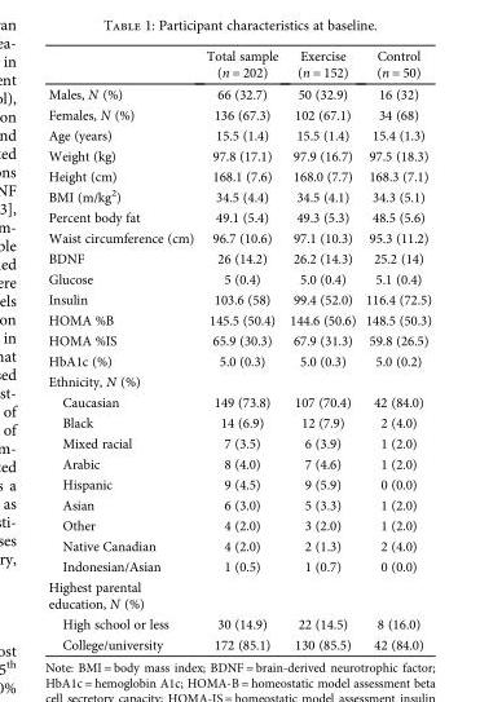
<table><thead><tr><td></td><td>Total sample (n = 202)</td><td>Exercise (n = 152)</td><td>Control (n = 50)</td></tr></thead><tbody><tr><td>Males, N (%)</td><td>66 (32.7)</td><td>50 (32.9)</td><td>16 (32)</td></tr><tr><td>Females, N (%)</td><td>136 (67.3)</td><td>102 (67.1)</td><td>34 (68)</td></tr><tr><td>Age (years)</td><td>15.5 (1.4)</td><td>15.5 (1.4)</td><td>15.4 (1.3)</td></tr><tr><td>Weight (kg)</td><td>97.8 (17.1)</td><td>97.9 (16.7)</td><td>97.5 (18.3)</td></tr><tr><td>Height (cm)</td><td>168.1 (7.6)</td><td>168.0 (7.7)</td><td>168.3 (7.1)</td></tr><tr><td>BMI (m/kg<sup>2</sup>)</td><td>34.5 (4.4)</td><td>34.5 (4.1)</td><td>34.3 (5.1)</td></tr><tr><td>Percent body fat</td><td>49.1 (5.4)</td><td>49.3 (5.3)</td><td>48.5 (5.6)</td></tr><tr><td>Waist circumference (cm)</td><td>96.7 (10.6)</td><td>97.1 (10.3)</td><td>95.3 (11.2)</td></tr><tr><td>BDNF</td><td>26 (14.2)</td><td>26.2 (14.3)</td><td>25.2 (14)</td></tr><tr><td>Glucose</td><td>5 (0.4)</td><td>5.0 (0.4)</td><td>5.1 (0.4)</td></tr><tr><td>Insulin</td><td>103.6 (58)</td><td>99.4 (52.0)</td><td>116.4 (72.5)</td></tr><tr><td>HOMA %B</td><td>145.5 (50.4)</td><td>144.6 (50.6)</td><td>148.5 (50.3)</td></tr><tr><td>HOMA %IS</td><td>65.9 (30.3)</td><td>67.9 (31.3)</td><td>59.8 (26.5)</td></tr><tr><td>HbA1c (%)</td><td>5.0 (0.3)</td><td>5.0 (0.3)</td><td>5.0 (0.2)</td></tr><tr><td colspan="4">Ethnicity, N (%)</td></tr><tr><td>Caucasian</td><td>149 (73.8)</td><td>107 (70.4)</td><td>42 (84.0)</td></tr><tr><td>Black</td><td>14 (6.9)</td><td>12 (7.9)</td><td>2 (4.0)</td></tr><tr><td>Mixed racial</td><td>7 (3.5)</td><td>6 (3.9)</td><td>1 (2.0)</td></tr><tr><td>Arabic</td><td>8 (4.0)</td><td>7 (4.6)</td><td>1 (2.0)</td></tr><tr><td>Hispanic</td><td>9 (4.5)</td><td>9 (5.9)</td><td>0 (0.0)</td></tr><tr><td>Asian</td><td>6 (3.0)</td><td>5 (3.3)</td><td>1 (2.0)</td></tr><tr><td>Other</td><td>4 (2.0)</td><td>3 (2.0)</td><td>1 (2.0)</td></tr><tr><td>Native Canadian</td><td>4 (2.0)</td><td>2 (1.3)</td><td>2 (4.0)</td></tr><tr><td>Indonesian/Asian</td><td>1 (0.5)</td><td>1 (0.7)</td><td>0 (0.0)</td></tr><tr><td colspan="4">Highest parental education, N (%)</td></tr><tr><td>High school or less</td><td>30 (14.9)</td><td>22 (14.5)</td><td>8 (16.0)</td></tr><tr><td>College/university</td><td>172 (85.1)</td><td>130 (85.5)</td><td>42 (84.0)</td></tr></tbody></table>